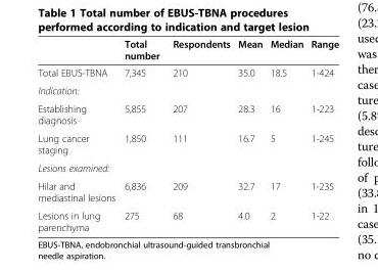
<table><thead><tr><td></td><td>Total number</td><td>Respondents</td><td>Mean</td><td>Median</td><td>Range</td></tr></thead><tbody><tr><td>Total EBUS-TBNA</td><td>7,345</td><td>210</td><td>35.0</td><td>18.5</td><td>1-424</td></tr><tr><td colspan="6">Indication:</td></tr><tr><td>Establishing diagnosis</td><td>5,855</td><td>207</td><td>28.3</td><td>16</td><td>1-223</td></tr><tr><td>Lung cancer staging</td><td>1,850</td><td>111</td><td>16.7</td><td>5</td><td>1-245</td></tr><tr><td colspan="6">Lesions examined:</td></tr><tr><td>Hilar and mediastinal lesions</td><td>6,836</td><td>209</td><td>32.7</td><td>17</td><td>1-235</td></tr><tr><td>Lesions in lung parenchyma</td><td>275</td><td>68</td><td>4.0</td><td>2</td><td>1-22</td></tr></tbody></table>